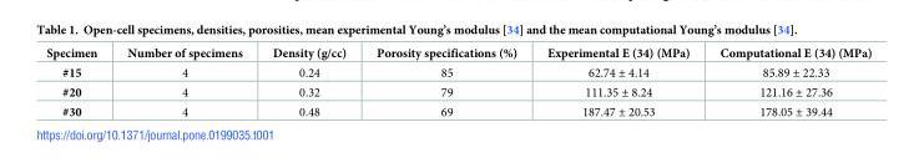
<table><thead><tr><td>Specimen</td><td>Number of specimens</td><td>Density (g/cc)</td><td>Porosity specifications (%)</td><td>Experimental E (34) (MPa)</td><td>Computational E (34) (MPa)</td></tr></thead><tbody><tr><td>#15</td><td>4</td><td>0.24</td><td>85</td><td>62.74 ± 4.14</td><td>85.89 ± 22.33</td></tr><tr><td>#20</td><td>4</td><td>0.32</td><td>79</td><td>111.35 ± 8.24</td><td>121.16 ± 27.36</td></tr><tr><td>#30</td><td>4</td><td>0.48</td><td>69</td><td>187.47 ± 20.53</td><td>178.05 ± 39.44</td></tr></tbody></table>